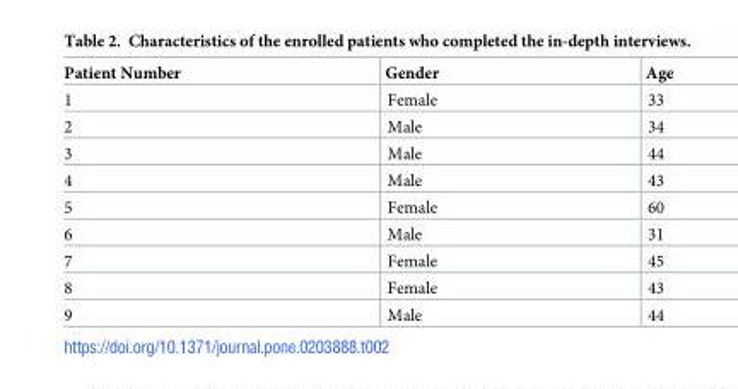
<table><thead><tr><td>Patient Number</td><td>Gender</td><td>Age</td></tr></thead><tbody><tr><td>1</td><td>Female</td><td>33</td></tr><tr><td>2</td><td>Male</td><td>34</td></tr><tr><td>3</td><td>Male</td><td>44</td></tr><tr><td>4</td><td>Male</td><td>43</td></tr><tr><td>5</td><td>Female</td><td>60</td></tr><tr><td>6</td><td>Male</td><td>31</td></tr><tr><td>7</td><td>Female</td><td>45</td></tr><tr><td>8</td><td>Female</td><td>43</td></tr><tr><td>9</td><td>Male</td><td>44</td></tr></tbody></table>